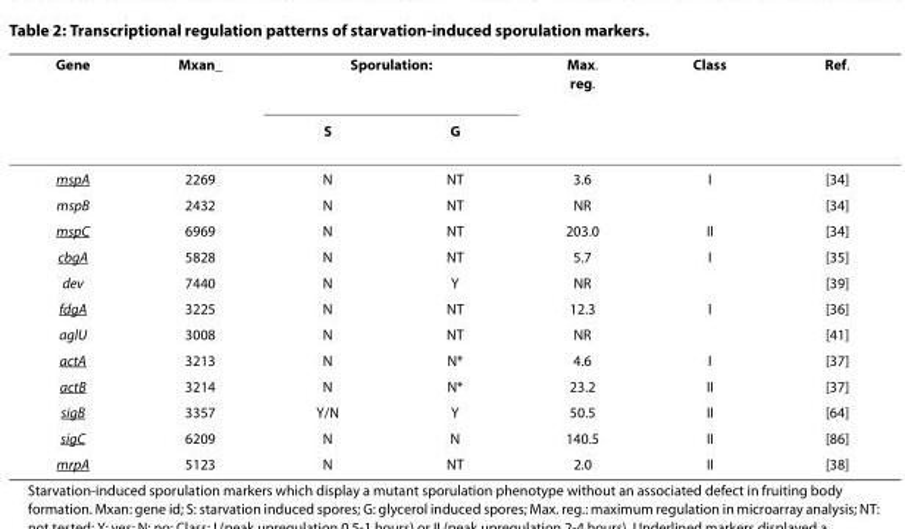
<table><thead><tr><td rowspan="2">Gene</td><td rowspan="2">Mxan_</td><td colspan="2">Sporulation:</td><td rowspan="2">Max. reg.</td><td rowspan="2">Class</td><td rowspan="2">Ref.</td></tr><tr><td>S</td><td>G</td></tr></thead><tbody><tr><td>mspA</td><td>2269</td><td>N</td><td>NT</td><td>3.6</td><td>I</td><td>[34]</td></tr><tr><td>mspB</td><td>2432</td><td>N</td><td>NT</td><td>NR</td><td></td><td>[34]</td></tr><tr><td>mspC</td><td>6969</td><td>N</td><td>NT</td><td>203.0</td><td>II</td><td>[34]</td></tr><tr><td>cbgA</td><td>5828</td><td>N</td><td>NT</td><td>5.7</td><td>I</td><td>[35]</td></tr><tr><td>dev</td><td>7440</td><td>N</td><td>Y</td><td>NR</td><td></td><td>[39]</td></tr><tr><td>fdgA</td><td>3225</td><td>N</td><td>NT</td><td>12.3</td><td>I</td><td>[36]</td></tr><tr><td>aglU</td><td>3008</td><td>N</td><td>NT</td><td>NR</td><td></td><td>[41]</td></tr><tr><td>actA</td><td>3213</td><td>N</td><td>N*</td><td>4.6</td><td>I</td><td>[37]</td></tr><tr><td>actB</td><td>3214</td><td>N</td><td>N*</td><td>23.2</td><td>II</td><td>[37]</td></tr><tr><td>sigB</td><td>3357</td><td>Y/N</td><td>Y</td><td>50.5</td><td>II</td><td>[64]</td></tr><tr><td>sigC</td><td>6209</td><td>N</td><td>N</td><td>140.5</td><td>II</td><td>[86]</td></tr><tr><td>mrpA</td><td>5123</td><td>N</td><td>NT</td><td>2.0</td><td>II</td><td>[38]</td></tr></tbody></table>